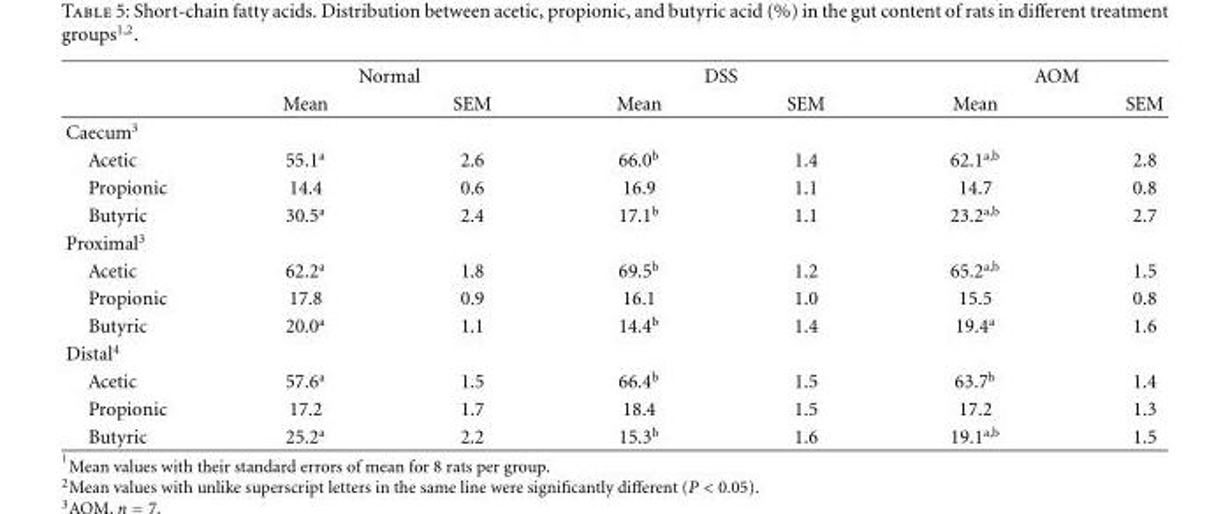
<table><thead><tr><td rowspan="2"></td><td colspan="2">Normal</td><td colspan="2">DSS</td><td colspan="2">AOM</td></tr><tr><td>Mean</td><td>SEM</td><td>Mean</td><td>SEM</td><td>Mean</td><td>SEM</td></tr></thead><tbody><tr><td colspan="7">Caecum<sup>3</sup></td></tr><tr><td>Acetic</td><td>55.1<sup>a</sup></td><td>2.6</td><td>66.0<sup>b</sup></td><td>1.4</td><td>62.1<sup>a,b</sup></td><td>2.8</td></tr><tr><td>Propionic</td><td>14.4</td><td>0.6</td><td>16.9</td><td>1.1</td><td>14.7</td><td>0.8</td></tr><tr><td>Butyric</td><td>30.5<sup>a</sup></td><td>2.4</td><td>17.1<sup>b</sup></td><td>1.1</td><td>23.2<sup>a,b</sup></td><td>2.7</td></tr><tr><td colspan="7">Proximal<sup>3</sup></td></tr><tr><td>Acetic</td><td>62.2<sup>a</sup></td><td>1.8</td><td>69.5<sup>b</sup></td><td>1.2</td><td>65.2<sup>a,b</sup></td><td>1.5</td></tr><tr><td>Propionic</td><td>17.8</td><td>0.9</td><td>16.1</td><td>1.0</td><td>15.5</td><td>0.8</td></tr><tr><td>Butyric</td><td>20.0<sup>a</sup></td><td>1.1</td><td>14.4<sup>b</sup></td><td>1.4</td><td>19.4<sup>a</sup></td><td>1.6</td></tr><tr><td colspan="7">Distal<sup>4</sup></td></tr><tr><td>Acetic</td><td>57.6<sup>a</sup></td><td>1.5</td><td>66.4<sup>b</sup></td><td>1.5</td><td>63.7<sup>b</sup></td><td>1.4</td></tr><tr><td>Propionic</td><td>17.2</td><td>1.7</td><td>18.4</td><td>1.5</td><td>17.2</td><td>1.3</td></tr><tr><td>Butyric</td><td>25.2<sup>a</sup></td><td>2.2</td><td>15.3<sup>b</sup></td><td>1.6</td><td>19.1<sup>a,b</sup></td><td>1.5</td></tr></tbody></table>